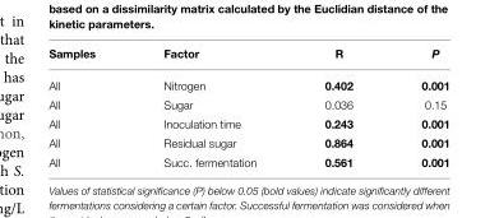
<table><thead><tr><td>Samples</td><td>Factor</td><td>R</td><td>P</td></tr></thead><tbody><tr><td>All</td><td>Nitrogen</td><td>0.402</td><td>0.001</td></tr><tr><td>All</td><td>Sugar</td><td>0.036</td><td>0.15</td></tr><tr><td>All</td><td>Inoculation time</td><td>0.243</td><td>0.001</td></tr><tr><td>All</td><td>Residual sugar</td><td>0.864</td><td>0.001</td></tr><tr><td>All</td><td>Succ. fermentation</td><td>0.561</td><td>0.001</td></tr></tbody></table>